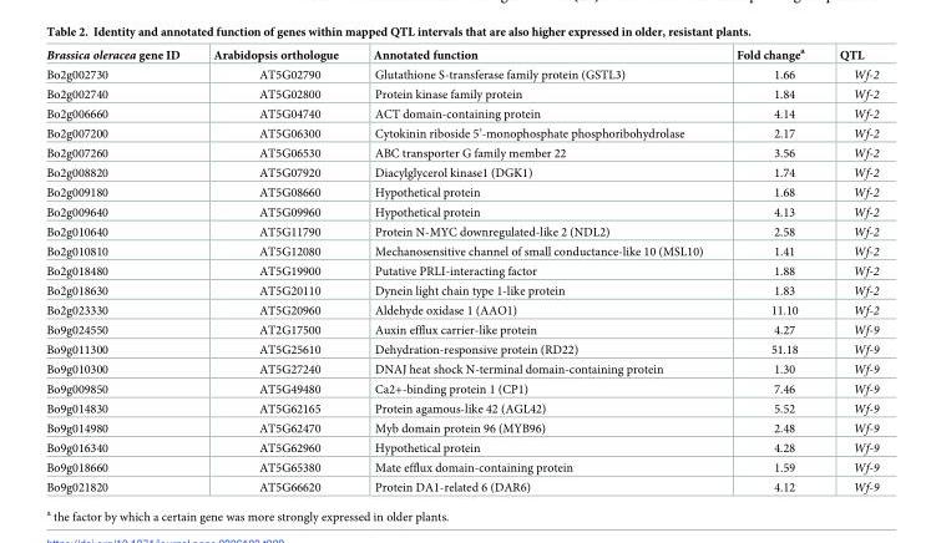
<table><thead><tr><td>Brassica oleracea gene ID</td><td>Arabidopsis orthologue</td><td>Annotated function</td><td>Fold change<sup>a</sup></td><td>QTL</td></tr></thead><tbody><tr><td>Bo2g002730</td><td>AT5G02790</td><td>Glutathione S-transferase family protein (GSTL3)</td><td>1.66</td><td>Wf-2</td></tr><tr><td>Bo2g002740</td><td>AT5G02800</td><td>Protein kinase family protein</td><td>1.84</td><td>Wf-2</td></tr><tr><td>Bo2g006660</td><td>AT5G04740</td><td>ACT domain-containing protein</td><td>4.14</td><td>Wf-2</td></tr><tr><td>Bo2g007200</td><td>AT5G06300</td><td>Cytokinin riboside 5’-monophosphate phosphoribohydrolase</td><td>2.17</td><td>Wf-2</td></tr><tr><td>Bo2g007260</td><td>AT5G06530</td><td>ABC transporter G family member 22</td><td>3.56</td><td>Wf-2</td></tr><tr><td>Bo2g008820</td><td>AT5G07920</td><td>Diacylglycerol kinase1 (DGK1)</td><td>1.74</td><td>Wf-2</td></tr><tr><td>Bo2g009180</td><td>AT5G08660</td><td>Hypothetical protein</td><td>1.68</td><td>Wf-2</td></tr><tr><td>Bo2g009640</td><td>AT5G09960</td><td>Hypothetical protein</td><td>4.13</td><td>Wf-2</td></tr><tr><td>Bo2g010640</td><td>AT5G11790</td><td>Protein N-MYC downregulated-like 2 (NDL2)</td><td>2.58</td><td>Wf-2</td></tr><tr><td>Bo2g010810</td><td>AT5G12080</td><td>Mechanosensitive channel of small conductance-like 10 (MSL10)</td><td>1.41</td><td>Wf-2</td></tr><tr><td>Bo2g018480</td><td>AT5G19900</td><td>Putative PRLI-interacting factor</td><td>1.88</td><td>Wf-2</td></tr><tr><td>Bo2g018630</td><td>AT5G20110</td><td>Dynein light chain type 1-like protein</td><td>1.83</td><td>Wf-2</td></tr><tr><td>Bo2g023330</td><td>AT5G20960</td><td>Aldehyde oxidase 1 (AAO1)</td><td>11.10</td><td>Wf-2</td></tr><tr><td>Bo9g024550</td><td>AT2G17500</td><td>Auxin efflux carrier-like protein</td><td>4.27</td><td>Wf-9</td></tr><tr><td>Bo9g011300</td><td>AT5G25610</td><td>Dehydration-responsive protein (RD22)</td><td>51.18</td><td>Wf-9</td></tr><tr><td>Bo9g010300</td><td>AT5G27240</td><td>DNAJ heat shock N-terminal domain-containing protein</td><td>1.30</td><td>Wf-9</td></tr><tr><td>Bo9g009850</td><td>AT5G49480</td><td>Ca2+-binding protein 1 (CP1)</td><td>7.46</td><td>Wf-9</td></tr><tr><td>Bo9g014830</td><td>AT5G62165</td><td>Protein agamous-like 42 (AGL42)</td><td>5.52</td><td>Wf-9</td></tr><tr><td>Bo9g014980</td><td>AT5G62470</td><td>Myb domain protein 96 (MYB96)</td><td>2.48</td><td>Wf-9</td></tr><tr><td>Bo9g016340</td><td>AT5G62960</td><td>Hypothetical protein</td><td>4.28</td><td>Wf-9</td></tr><tr><td>Bo9g018660</td><td>AT5G65380</td><td>Mate efflux domain-containing protein</td><td>1.59</td><td>Wf-9</td></tr><tr><td>Bo9g021820</td><td>AT5G66620</td><td>Protein DA1-related 6 (DAR6)</td><td>4.12</td><td>Wf-9</td></tr></tbody></table>